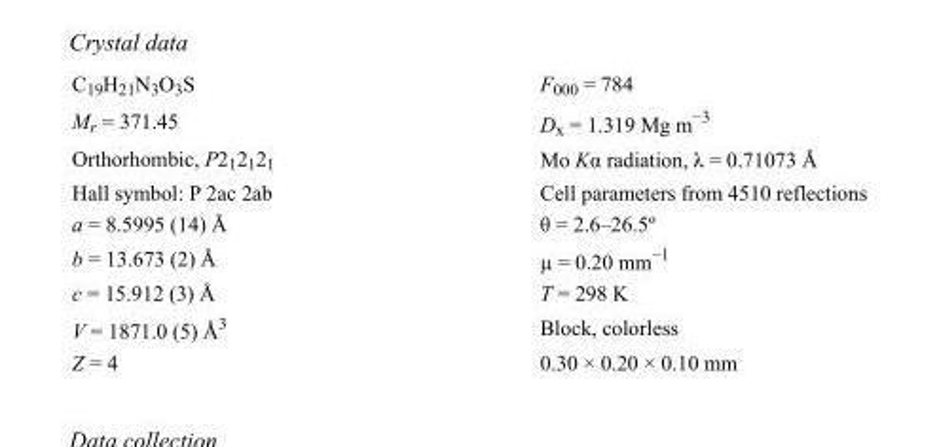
<table><tbody><tr><td>C<sub>19</sub>H<sub>21</sub>N<sub>3</sub>O<sub>3</sub>S</td><td>F000 = 784</td></tr><tr><td>M<sub>r</sub> = 371.45</td><td>D<sub>x</sub> = 1.319 Mg m<sup>−3</sup></td></tr><tr><td>Orthorhombic, P2<sub>1</sub>2<sub>1</sub>2<sub>1</sub></td><td>Mo Kα radiation, λ = 0.71073 Å</td></tr><tr><td>Hall symbol: P 2ac 2ab</td><td>Cell parameters from 4510 reflections</td></tr><tr><td>a = 8.5995 (14) Å</td><td>θ = 2.6–26.5º</td></tr><tr><td>b = 13.673 (2) Å</td><td>µ = 0.20 mm<sup>−1</sup></td></tr><tr><td>c = 15.912 (3) Å</td><td>T = 298 K</td></tr><tr><td>V = 1871.0 (5) Å<sup>3</sup></td><td>Block, colorless</td></tr><tr><td>Z = 4</td><td>0.30 × 0.20 × 0.10 mm</td></tr></tbody></table>